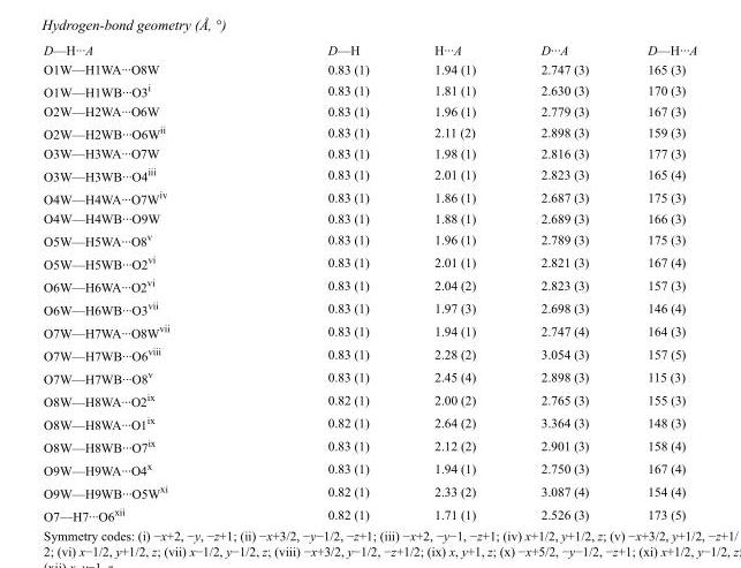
<table><tbody><tr><td>D—H···A</td><td>D—H</td><td>H···A</td><td>D···A</td><td>D—H···A</td></tr><tr><td>O1W—H1WA···O8W</td><td>0.83 (1)</td><td>1.94 (1)</td><td>2.747 (3)</td><td>165 (3)</td></tr><tr><td>O1W—H1WB···O3<sup>i</sup></td><td>0.83 (1)</td><td>1.81 (1)</td><td>2.630 (3)</td><td>170 (3)</td></tr><tr><td>O2W—H2WA···O6W</td><td>0.83 (1)</td><td>1.96 (1)</td><td>2.779 (3)</td><td>167 (3)</td></tr><tr><td>O2W—H2WB···O6W<sup>ii</sup></td><td>0.83 (1)</td><td>2.11 (2)</td><td>2.898 (3)</td><td>159 (3)</td></tr><tr><td>O3W—H3WA···O7W</td><td>0.83 (1)</td><td>1.98 (1)</td><td>2.816 (3)</td><td>177 (3)</td></tr><tr><td>O3W—H3WB···O4<sup>iii</sup></td><td>0.83 (1)</td><td>2.01 (1)</td><td>2.823 (3)</td><td>165 (4)</td></tr><tr><td>O4W—H4WA···O7W<sup>iv</sup></td><td>0.83 (1)</td><td>1.86 (1)</td><td>2.687 (3)</td><td>175 (3)</td></tr><tr><td>O4W—H4WB···O9W</td><td>0.83 (1)</td><td>1.88 (1)</td><td>2.689 (3)</td><td>166 (3)</td></tr><tr><td>O5W—H5WA···O8<sup>v</sup></td><td>0.83 (1)</td><td>1.96 (1)</td><td>2.789 (3)</td><td>175 (3)</td></tr><tr><td>O5W—H5WB···O2<sup>vi</sup></td><td>0.83 (1)</td><td>2.01 (1)</td><td>2.821 (3)</td><td>167 (4)</td></tr><tr><td>O6W—H6WA···O2<sup>vi</sup></td><td>0.83 (1)</td><td>2.04 (2)</td><td>2.823 (3)</td><td>157 (3)</td></tr><tr><td>O6W—H6WB···O3<sup>vii</sup></td><td>0.83 (1)</td><td>1.97 (3)</td><td>2.698 (3)</td><td>146 (4)</td></tr><tr><td>O7W—H7WA···O8W<sup>vii</sup></td><td>0.83 (1)</td><td>1.94 (1)</td><td>2.747 (4)</td><td>164 (3)</td></tr><tr><td>O7W—H7WB···O6<sup>viii</sup></td><td>0.83 (1)</td><td>2.28 (2)</td><td>3.054 (3)</td><td>157 (5)</td></tr><tr><td>O7W—H7WB···O8<sup>v</sup></td><td>0.83 (1)</td><td>2.45 (4)</td><td>2.898 (3)</td><td>115 (3)</td></tr><tr><td>O8W—H8WA···O2<sup>ix</sup></td><td>0.82 (1)</td><td>2.00 (2)</td><td>2.765 (3)</td><td>155 (3)</td></tr><tr><td>O8W—H8WA···O1<sup>ix</sup></td><td>0.82 (1)</td><td>2.64 (2)</td><td>3.364 (3)</td><td>148 (3)</td></tr><tr><td>O8W—H8WB···O7<sup>ix</sup></td><td>0.83 (1)</td><td>2.12 (2)</td><td>2.901 (3)</td><td>158 (4)</td></tr><tr><td>O9W—H9WA···O4<sup>x</sup></td><td>0.83 (1)</td><td>1.94 (1)</td><td>2.750 (3)</td><td>167 (4)</td></tr><tr><td>O9W—H9WB···O5W<sup>xi</sup></td><td>0.82 (1)</td><td>2.33 (2)</td><td>3.087 (4)</td><td>154 (4)</td></tr><tr><td>O7—H7···O6<sup>xii</sup></td><td>0.82 (1)</td><td>1.71 (1)</td><td>2.526 (3)</td><td>173 (5)</td></tr></tbody></table>